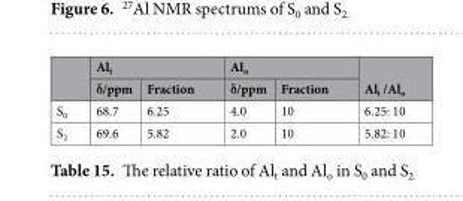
<table><thead><tr><td rowspan="2"></td><td colspan="2">Al<sub>t</sub></td><td colspan="2">Al<sub>o</sub></td><td rowspan="2">Al<sub>t</sub> /Al<sub>o</sub></td></tr><tr><td>δ/ppm</td><td>Fraction</td><td>δ/ppm</td><td>Fraction</td></tr></thead><tbody><tr><td>S<sub>0</sub></td><td>68.7</td><td>6.25</td><td>4.0</td><td>10</td><td>6.25: 10</td></tr><tr><td>S<sub>2</sub></td><td>69.6</td><td>5.82</td><td>2.0</td><td>10</td><td>5.82: 10</td></tr></tbody></table>